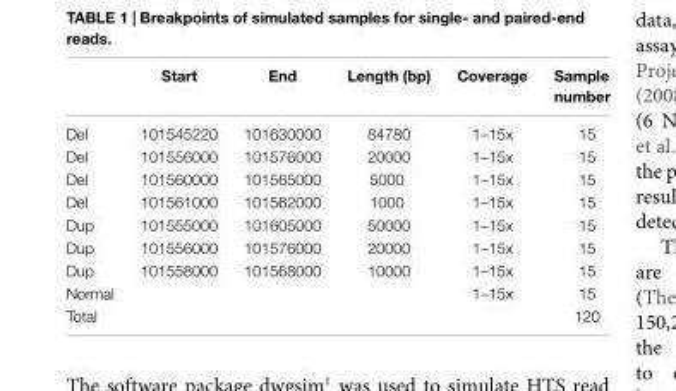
<table><thead><tr><td></td><td>Start</td><td>End</td><td>Length (bp)</td><td>Coverage</td><td>Sample number</td></tr></thead><tbody><tr><td>Del</td><td>101545220</td><td>101630000</td><td>84780</td><td>1–15x</td><td>15</td></tr><tr><td>Del</td><td>101556000</td><td>101576000</td><td>20000</td><td>1–15x</td><td>15</td></tr><tr><td>Del</td><td>101560000</td><td>101565000</td><td>5000</td><td>1–15x</td><td>15</td></tr><tr><td>Del</td><td>101561000</td><td>101562000</td><td>1000</td><td>1–15x</td><td>15</td></tr><tr><td>Dup</td><td>101555000</td><td>101605000</td><td>50000</td><td>1–15x</td><td>15</td></tr><tr><td>Dup</td><td>101556000</td><td>101576000</td><td>20000</td><td>1–15x</td><td>15</td></tr><tr><td>Dup</td><td>101558000</td><td>101568000</td><td>10000</td><td>1–15x</td><td>15</td></tr><tr><td>Normal</td><td></td><td></td><td></td><td>1–15x</td><td>15</td></tr><tr><td>Total</td><td></td><td></td><td></td><td></td><td>120</td></tr></tbody></table>